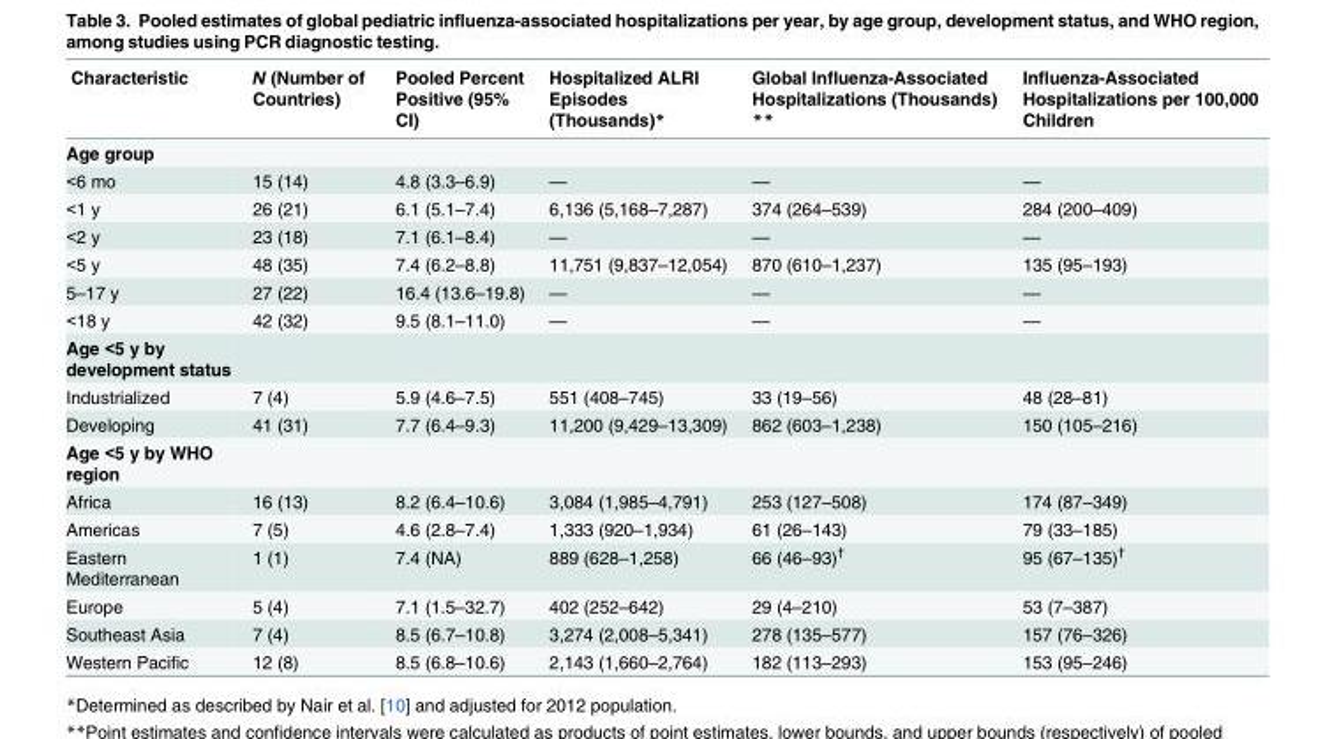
<table><thead><tr><td>Characteristic</td><td>N (Number of Countries)</td><td>Pooled Percent Positive (95% CI)</td><td>Hospitalized ALRI Episodes (Thousands)*</td><td>Global Influenza-Associated Hospitalizations (Thousands) **</td><td>Influenza-Associated Hospitalizations per 100,000 Children</td></tr></thead><tbody><tr><td colspan="6">Age group</td></tr><tr><td>&lt;6 mo</td><td>15 (14)</td><td>4.8 (3.3–6.9)</td><td>—</td><td>—</td><td>—</td></tr><tr><td>&lt;1 y</td><td>26 (21)</td><td>6.1 (5.1–7.4)</td><td>6,136 (5,168–7,287)</td><td>374 (264–539)</td><td>284 (200–409)</td></tr><tr><td>&lt;2 y</td><td>23 (18)</td><td>7.1 (6.1–8.4)</td><td>—</td><td>—</td><td>—</td></tr><tr><td>&lt;5 y</td><td>48 (35)</td><td>7.4 (6.2–8.8)</td><td>11,751 (9,837–12,054)</td><td>870 (610–1,237)</td><td>135 (95–193)</td></tr><tr><td>5–17 y</td><td>27 (22)</td><td>16.4 (13.6–19.8)</td><td>—</td><td>—</td><td>—</td></tr><tr><td>&lt;18 y</td><td>42 (32)</td><td>9.5 (8.1–11.0)</td><td>—</td><td>—</td><td>—</td></tr><tr><td colspan="6">Age &lt;5 y by development status</td></tr><tr><td>Industrialized</td><td>7 (4)</td><td>5.9 (4.6–7.5)</td><td>551 (408–745)</td><td>33 (19–56)</td><td>48 (28–81)</td></tr><tr><td>Developing</td><td>41 (31)</td><td>7.7 (6.4–9.3)</td><td>11,200 (9,429–13,309)</td><td>862 (603–1,238)</td><td>150 (105–216)</td></tr><tr><td colspan="6">Age &lt;5 y by WHO region</td></tr><tr><td>Africa</td><td>16 (13)</td><td>8.2 (6.4–10.6)</td><td>3,084 (1,985–4,791)</td><td>253 (127–508)</td><td>174 (87–349)</td></tr><tr><td>Americas</td><td>7 (5)</td><td>4.6 (2.8–7.4)</td><td>1,333 (920–1,934)</td><td>61 (26–143)</td><td>79 (33–185)</td></tr><tr><td>Eastern Mediterranean</td><td>1 (1)</td><td>7.4 (NA)</td><td>889 (628–1,258)</td><td>66 (46–93)<sup>†</sup></td><td>95 (67–135)<sup>†</sup></td></tr><tr><td>Europe</td><td>5 (4)</td><td>7.1 (1.5–32.7)</td><td>402 (252–642)</td><td>29 (4–210)</td><td>53 (7–387)</td></tr><tr><td>Southeast Asia</td><td>7 (4)</td><td>8.5 (6.7–10.8)</td><td>3,274 (2,008–5,341)</td><td>278 (135–577)</td><td>157 (76–326)</td></tr><tr><td>Western Pacific</td><td>12 (8)</td><td>8.5 (6.8–10.6)</td><td>2,143 (1,660–2,764)</td><td>182 (113–293)</td><td>153 (95–246)</td></tr></tbody></table>